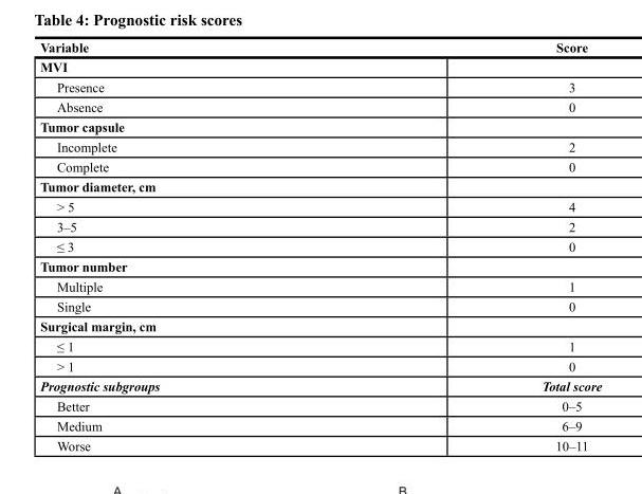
<table><thead><tr><td>Variable</td><td>Score</td></tr></thead><tbody><tr><td colspan="2">MVI</td></tr><tr><td>Presence</td><td>3</td></tr><tr><td>Absence</td><td>0</td></tr><tr><td colspan="2">Tumor capsule</td></tr><tr><td>Incomplete</td><td>2</td></tr><tr><td>Complete</td><td>0</td></tr><tr><td colspan="2">Tumor diameter, cm</td></tr><tr><td>&gt; 5</td><td>4</td></tr><tr><td>3–5</td><td>2</td></tr><tr><td>≤ 3</td><td>0</td></tr><tr><td colspan="2">Tumor number</td></tr><tr><td>Multiple</td><td>1</td></tr><tr><td>Single</td><td>0</td></tr><tr><td colspan="2">Surgical margin, cm</td></tr><tr><td>≤ 1</td><td>1</td></tr><tr><td>&gt; 1</td><td>0</td></tr><tr><td>Prognostic subgroups</td><td>Total score</td></tr><tr><td>Better</td><td>0–5</td></tr><tr><td>Medium</td><td>6–9</td></tr><tr><td>Worse</td><td>10–11</td></tr></tbody></table>